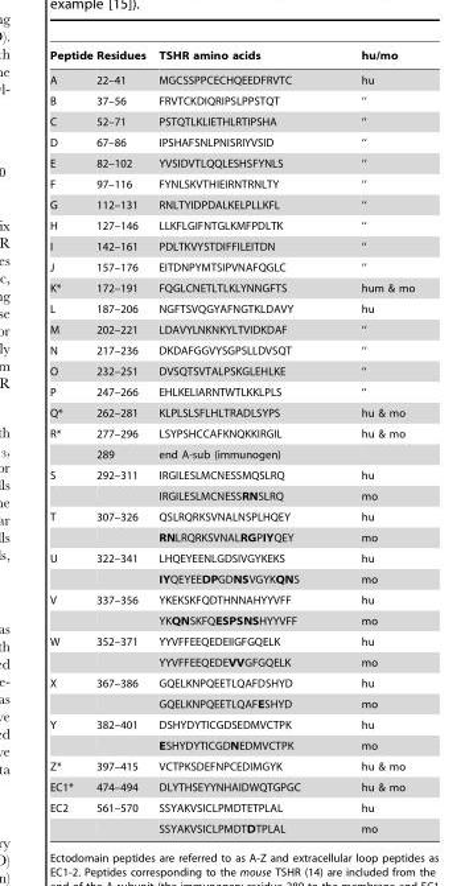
<table><thead><tr><td>Peptide</td><td>Residues</td><td>TSHR amino acids</td><td>hu/mo</td></tr></thead><tbody><tr><td>A</td><td>22–41</td><td>MGCSSPPCECHQEEDFRVTC</td><td>hu</td></tr><tr><td>B</td><td>37–56</td><td>FRVTCKDIQRIPSLPPSTQT</td><td>‘‘</td></tr><tr><td>C</td><td>52–71</td><td>PSTQTLKLIETHLRTIPSHA</td><td>‘‘</td></tr><tr><td>D</td><td>67–86</td><td>IPSHAFSNLPNISRIYVSID</td><td>‘‘</td></tr><tr><td>E</td><td>82–102</td><td>YVSIDVTLQQLESHSFYNLS</td><td>‘‘</td></tr><tr><td>F</td><td>97–116</td><td>FYNLSKVTHIEIRNTRNLTY</td><td>‘‘</td></tr><tr><td>G</td><td>112–131</td><td>RNLTYIDPDALKELPLLKFL</td><td>‘‘</td></tr><tr><td>H</td><td>127–146</td><td>LLKFLGIFNTGLKMFPDLTK</td><td>‘‘</td></tr><tr><td>I</td><td>142–161</td><td>PDLTKVYSTDIFFILEITDN</td><td>‘‘</td></tr><tr><td>J</td><td>157–176</td><td>EITDNPYMTSIPVNAFQGLC</td><td>‘‘</td></tr><tr><td>K*</td><td>172–191</td><td>FQGLCNETLTLKLYNNGFTS</td><td>hum &amp; mo</td></tr><tr><td>L</td><td>187–206</td><td>NGFTSVQGYAFNGTKLDAVY</td><td>hu</td></tr><tr><td>M</td><td>202–221</td><td>LDAVYLNKNKYLTVIDKDAF</td><td>‘‘</td></tr><tr><td>N</td><td>217–236</td><td>DKDAFGGVYSGPSLLDVSQT</td><td>‘‘</td></tr><tr><td>O</td><td>232–251</td><td>DVSQTSVTALPSKGLEHLKE</td><td>‘‘</td></tr><tr><td>P</td><td>247–266</td><td>EHLKELIARNTWTLKKLPLS</td><td>‘‘</td></tr><tr><td>Q*</td><td>262–281</td><td>KLPLSLSFLHLTRADLSYPS</td><td>hu &amp; mo</td></tr><tr><td rowspan="2">R*</td><td>277–296</td><td>LSYPSHCCAFKNQKKIRGIL</td><td>hu &amp; mo</td></tr><tr><td>289</td><td>end A-sub (immunogen)</td><td></td></tr><tr><td rowspan="2">S</td><td>292–311</td><td>IRGILESLMCNESSMQSLRQ</td><td>hu</td></tr><tr><td></td><td>IRGILESLMCNESSRNSLRQ</td><td>mo</td></tr><tr><td rowspan="2">T</td><td>307–326</td><td>QSLRQRKSVNALNSPLHQEY</td><td>hu</td></tr><tr><td></td><td>RNLRQRKSVNALRGPIYQEY</td><td>mo</td></tr><tr><td rowspan="2">U</td><td>322–341</td><td>LHQEYEENLGDSIVGYKEKS</td><td>hu</td></tr><tr><td></td><td>IYQEYEEDPGDNSVGYKQNS</td><td>mo</td></tr><tr><td rowspan="2">V</td><td>337–356</td><td>YKEKSKFQDTHNNAHYYVFF</td><td>hu</td></tr><tr><td></td><td>YKQNSKFQESPSNSHYYVFF</td><td>mo</td></tr><tr><td rowspan="2">W</td><td>352–371</td><td>YYVFFEEQEDEIIGFGQELK</td><td>hu</td></tr><tr><td></td><td>YYVFFEEQEDEVVGFGQELK</td><td>mo</td></tr><tr><td rowspan="2">X</td><td>367–386</td><td>GQELKNPQEETLQAFDSHYD</td><td>hu</td></tr><tr><td></td><td>GQELKNPQEETLQAFESHYD</td><td>mo</td></tr><tr><td rowspan="2">Y</td><td>382–401</td><td>DSHYDYTICGDSEDMVCTPK</td><td>hu</td></tr><tr><td></td><td>ESHYDYTICGDNEDMVCTPK</td><td>mo</td></tr><tr><td>Z*</td><td>397–415</td><td>VCTPKSDEFNPCEDIMGYK</td><td>hu &amp; mo</td></tr><tr><td>EC1*</td><td>474–494</td><td>DLYTHSEYYNHAIDWQTGPGC</td><td>hu &amp; mo</td></tr><tr><td rowspan="2">EC2</td><td>561–570</td><td>SSYAKVSICLPMDTETPLAL</td><td>hu</td></tr><tr><td></td><td>SSYAKVSICLPMDTDTPLAL</td><td>mo</td></tr></tbody></table>